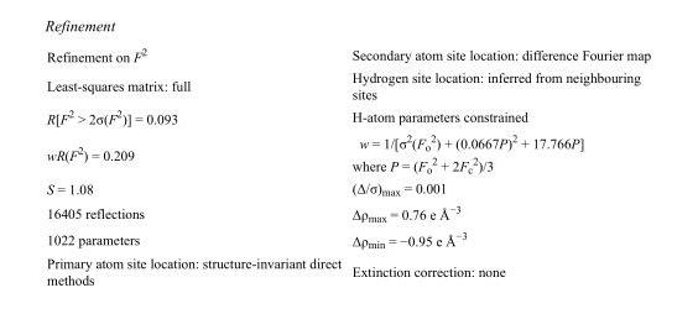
<table><tbody><tr><td>Refinement on F<sup>2</sup></td><td>Secondary atom site location: difference Fourier map</td></tr><tr><td>Least-squares matrix: full</td><td>Hydrogen site location: inferred from neighbouring sites</td></tr><tr><td>R[F<sup>2</sup> &gt; 2σ(F<sup>2</sup>)] = 0.093</td><td>H-atom parameters constrained</td></tr><tr><td>wR(F<sup>2</sup>) = 0.209</td><td>w = 1/[σ<sup>2</sup>(F<sub>o</sub> <sup>2</sup>) + (0.0667P)<sup>2</sup> + 17.766P] where P = (F<sub>o</sub> <sup>2</sup> + 2F<sub>c</sub> <sup>2</sup>)/3</td></tr><tr><td>S = 1.08</td><td>(Δ/σ)<sub>max</sub> = 0.001</td></tr><tr><td>16405 reflections</td><td>Δρ<sub>max</sub> = 0.76 e Å<sup>−3</sup></td></tr><tr><td>1022 parameters</td><td>Δρ<sub>min</sub> = −0.95 e Å<sup>−3</sup></td></tr><tr><td>Primary atom site location: structure-invariant direct methods</td><td>Extinction correction: none</td></tr></tbody></table>